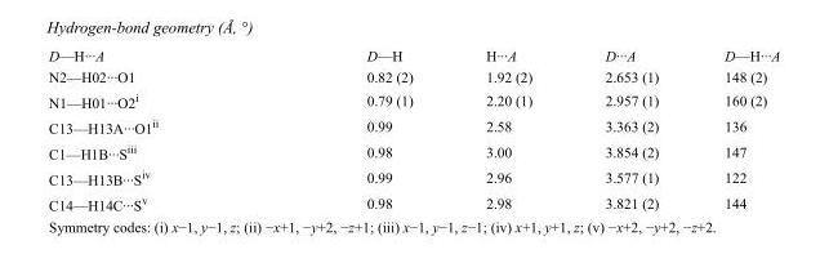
<table><tbody><tr><td>D—H···A</td><td>D—H</td><td>H···A</td><td>D···A</td><td>D—H···A</td></tr><tr><td>N2—H02···O1</td><td>0.82 (2)</td><td>1.92 (2)</td><td>2.653 (1)</td><td>148 (2)</td></tr><tr><td>N1—H01···O2<sup>i</sup></td><td>0.79 (1)</td><td>2.20 (1)</td><td>2.957 (1)</td><td>160 (2)</td></tr><tr><td>C13—H13A···O1<sup>ii</sup></td><td>0.99</td><td>2.58</td><td>3.363 (2)</td><td>136</td></tr><tr><td>C1—H1B···S<sup>iii</sup></td><td>0.98</td><td>3.00</td><td>3.854 (2)</td><td>147</td></tr><tr><td>C13—H13B···S<sup>iv</sup></td><td>0.99</td><td>2.96</td><td>3.577 (1)</td><td>122</td></tr><tr><td>C14—H14C···S<sup>v</sup></td><td>0.98</td><td>2.98</td><td>3.821 (2)</td><td>144</td></tr></tbody></table>